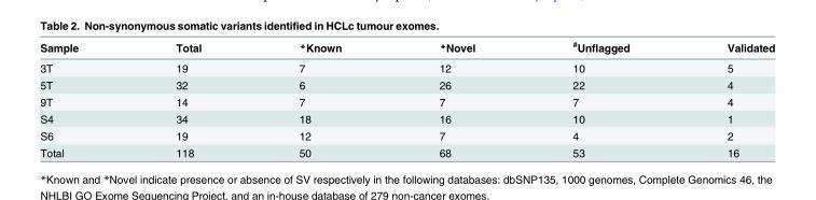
<table><thead><tr><td>Sample</td><td>Total</td><td>*Known</td><td>*Novel</td><td><sup>#</sup>Unflagged</td><td>Validated</td></tr></thead><tbody><tr><td>3T</td><td>19</td><td>7</td><td>12</td><td>10</td><td>5</td></tr><tr><td>5T</td><td>32</td><td>6</td><td>26</td><td>22</td><td>4</td></tr><tr><td>9T</td><td>14</td><td>7</td><td>7</td><td>7</td><td>4</td></tr><tr><td>S4</td><td>34</td><td>18</td><td>16</td><td>10</td><td>1</td></tr><tr><td>S6</td><td>19</td><td>12</td><td>7</td><td>4</td><td>2</td></tr><tr><td>Total</td><td>118</td><td>50</td><td>68</td><td>53</td><td>16</td></tr></tbody></table>